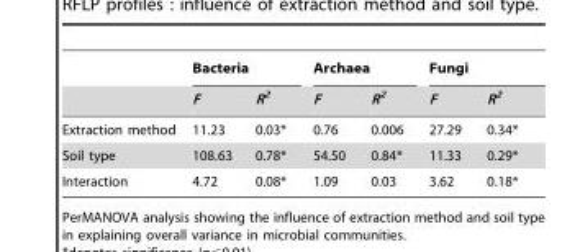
<table><thead><tr><td rowspan="2"></td><td colspan="2">Bacteria</td><td colspan="2">Archaea</td><td colspan="2">Fungi</td></tr><tr><td>F</td><td>R<sup>2</sup></td><td>F</td><td>R<sup>2</sup></td><td>F</td><td>R<sup>2</sup></td></tr></thead><tbody><tr><td>Extraction method</td><td>11.23</td><td>0.03*</td><td>0.76</td><td>0.006</td><td>27.29</td><td>0.34*</td></tr><tr><td>Soil type</td><td>108.63</td><td>0.78*</td><td>54.50</td><td>0.84*</td><td>11.33</td><td>0.29*</td></tr><tr><td>Interaction</td><td>4.72</td><td>0.08*</td><td>1.09</td><td>0.03</td><td>3.62</td><td>0.18*</td></tr></tbody></table>